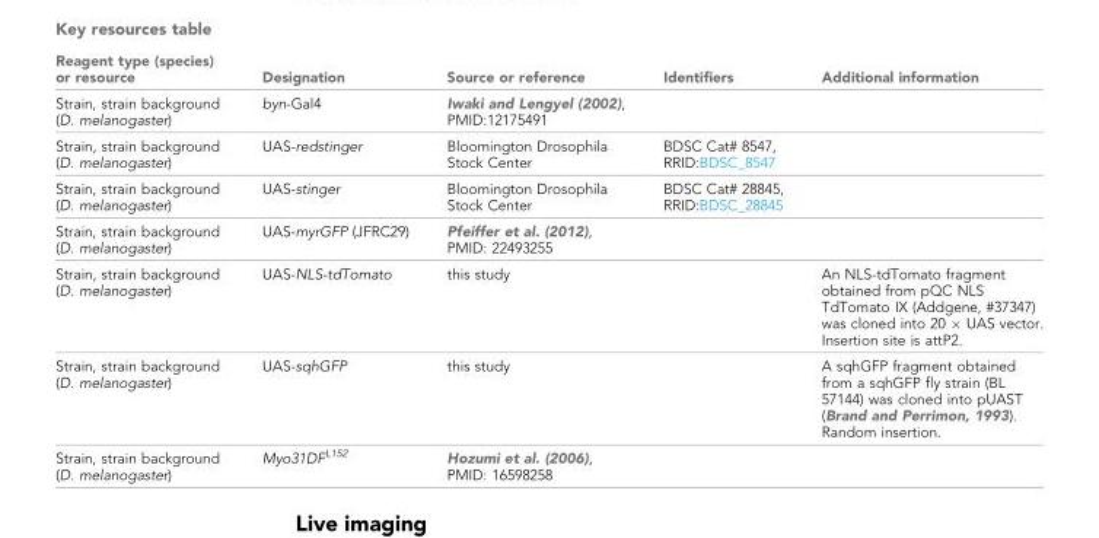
<table><thead><tr><td>Reagent type (species) or resource</td><td>Designation</td><td>Source or reference</td><td>Identifiers</td><td>Additional information</td></tr></thead><tbody><tr><td>Strain, strain background (D. melanogaster)</td><td>byn-Gal4</td><td>Iwaki and Lengyel (2002), PMID:12175491</td><td></td><td></td></tr><tr><td>Strain, strain background (D. melanogaster)</td><td>UAS-redstinger</td><td>Bloomington Drosophila Stock Center</td><td>BDSC Cat# 8547, RRID:BDSC_8547</td><td></td></tr><tr><td>Strain, strain background (D. melanogaster)</td><td>UAS-stinger</td><td>Bloomington Drosophila Stock Center</td><td>BDSC Cat# 28845, RRID:BDSC_28845</td><td></td></tr><tr><td>Strain, strain background (D. melanogaster)</td><td>UAS-myrGFP (JFRC29)</td><td>Pfeiffer et al. (2012), PMID: 22493255</td><td></td><td></td></tr><tr><td>Strain, strain background (D. melanogaster)</td><td>UAS-NLS-tdTomato</td><td>this study</td><td></td><td>An NLS-tdTomato fragment obtained from pQC NLS TdTomato IX (Addgene, #37347) was cloned into 20 × UAS vector. Insertion site is attP2.</td></tr><tr><td>Strain, strain background (D. melanogaster)</td><td>UAS-sqhGFP</td><td>this study</td><td></td><td>A sqhGFP fragment obtained from a sqhGFP fly strain (BL 57144) was cloned into pUAST (Brand and Perrimon, 1993). Random insertion.</td></tr><tr><td>Strain, strain background (D. melanogaster)</td><td>Myo31DF<sup>L152</sup></td><td>Hozumi et al. (2006), PMID: 16598258</td><td></td><td></td></tr></tbody></table>